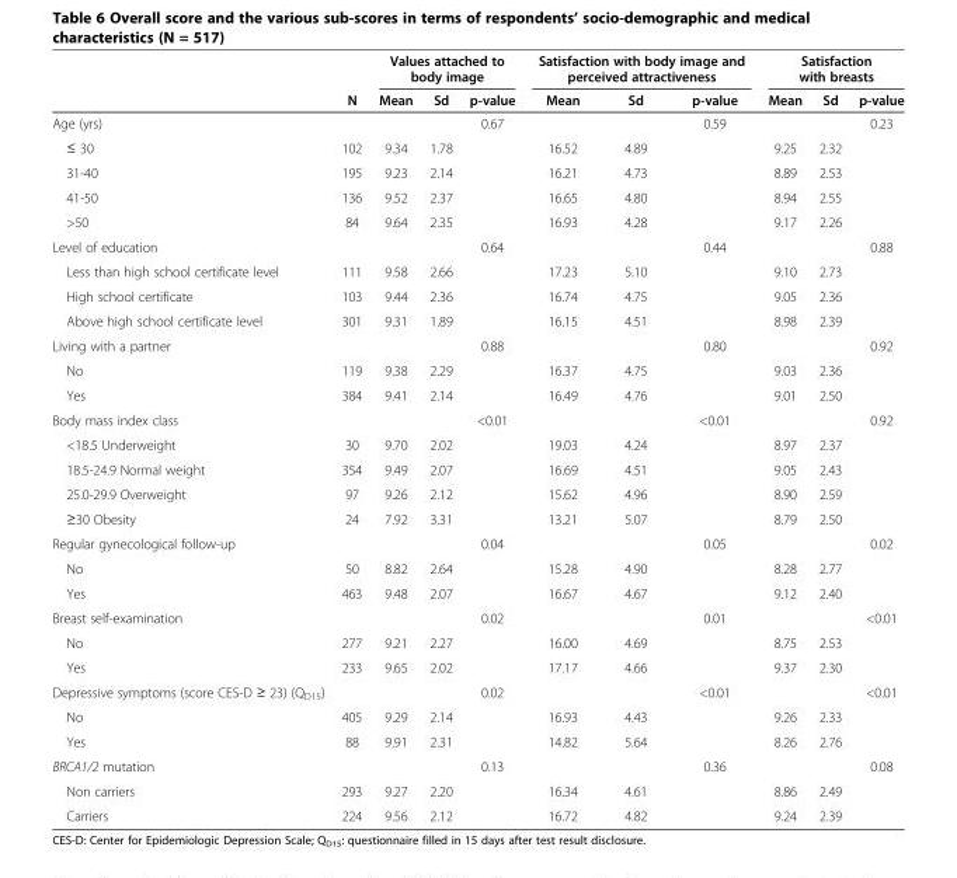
<table><thead><tr><td rowspan="2"></td><td rowspan="2">N</td><td colspan="3">Values attached to body image</td><td colspan="3">Satisfaction with body image and perceived attractiveness</td><td colspan="3">Satisfaction with breasts</td></tr><tr><td>Mean</td><td>Sd</td><td>p-value</td><td>Mean</td><td>Sd</td><td>p-value</td><td>Mean</td><td>Sd</td><td>p-value</td></tr></thead><tbody><tr><td>Age (yrs)</td><td></td><td></td><td></td><td>0.67</td><td></td><td></td><td>0.59</td><td></td><td></td><td>0.23</td></tr><tr><td>≤ 30</td><td>102</td><td>9.34</td><td>1.78</td><td></td><td>16.52</td><td>4.89</td><td></td><td>9.25</td><td>2.32</td><td></td></tr><tr><td>31-40</td><td>195</td><td>9.23</td><td>2.14</td><td></td><td>16.21</td><td>4.73</td><td></td><td>8.89</td><td>2.53</td><td></td></tr><tr><td>41-50</td><td>136</td><td>9.52</td><td>2.37</td><td></td><td>16.65</td><td>4.80</td><td></td><td>8.94</td><td>2.55</td><td></td></tr><tr><td>&gt;50</td><td>84</td><td>9.64</td><td>2.35</td><td></td><td>16.93</td><td>4.28</td><td></td><td>9.17</td><td>2.26</td><td></td></tr><tr><td>Level of education</td><td></td><td></td><td></td><td>0.64</td><td></td><td></td><td>0.44</td><td></td><td></td><td>0.88</td></tr><tr><td>Less than high school certificate level</td><td>111</td><td>9.58</td><td>2.66</td><td></td><td>17.23</td><td>5.10</td><td></td><td>9.10</td><td>2.73</td><td></td></tr><tr><td>High school certificate</td><td>103</td><td>9.44</td><td>2.36</td><td></td><td>16.74</td><td>4.75</td><td></td><td>9.05</td><td>2.36</td><td></td></tr><tr><td>Above high school certificate level</td><td>301</td><td>9.31</td><td>1.89</td><td></td><td>16.15</td><td>4.51</td><td></td><td>8.98</td><td>2.39</td><td></td></tr><tr><td>Living with a partner</td><td></td><td></td><td></td><td>0.88</td><td></td><td></td><td>0.80</td><td></td><td></td><td>0.92</td></tr><tr><td>No</td><td>119</td><td>9.38</td><td>2.29</td><td></td><td>16.37</td><td>4.75</td><td></td><td>9.03</td><td>2.36</td><td></td></tr><tr><td>Yes</td><td>384</td><td>9.41</td><td>2.14</td><td></td><td>16.49</td><td>4.76</td><td></td><td>9.01</td><td>2.50</td><td></td></tr><tr><td>Body mass index class</td><td></td><td></td><td></td><td>&lt;0.01</td><td></td><td></td><td>&lt;0.01</td><td></td><td></td><td>0.92</td></tr><tr><td>&lt;18.5 Underweight</td><td>30</td><td>9.70</td><td>2.02</td><td></td><td>19.03</td><td>4.24</td><td></td><td>8.97</td><td>2.37</td><td></td></tr><tr><td>18.5-24.9 Normal weight</td><td>354</td><td>9.49</td><td>2.07</td><td></td><td>16.69</td><td>4.51</td><td></td><td>9.05</td><td>2.43</td><td></td></tr><tr><td>25.0-29.9 Overweight</td><td>97</td><td>9.26</td><td>2.12</td><td></td><td>15.62</td><td>4.96</td><td></td><td>8.90</td><td>2.59</td><td></td></tr><tr><td>≥30 Obesity</td><td>24</td><td>7.92</td><td>3.31</td><td></td><td>13.21</td><td>5.07</td><td></td><td>8.79</td><td>2.50</td><td></td></tr><tr><td>Regular gynecological follow-up</td><td></td><td></td><td></td><td>0.04</td><td></td><td></td><td>0.05</td><td></td><td></td><td>0.02</td></tr><tr><td>No</td><td>50</td><td>8.82</td><td>2.64</td><td></td><td>15.28</td><td>4.90</td><td></td><td>8.28</td><td>2.77</td><td></td></tr><tr><td>Yes</td><td>463</td><td>9.48</td><td>2.07</td><td></td><td>16.67</td><td>4.67</td><td></td><td>9.12</td><td>2.40</td><td></td></tr><tr><td>Breast self-examination</td><td></td><td></td><td></td><td>0.02</td><td></td><td></td><td>0.01</td><td></td><td></td><td>&lt;0.01</td></tr><tr><td>No</td><td>277</td><td>9.21</td><td>2.27</td><td></td><td>16.00</td><td>4.69</td><td></td><td>8.75</td><td>2.53</td><td></td></tr><tr><td>Yes</td><td>233</td><td>9.65</td><td>2.02</td><td></td><td>17.17</td><td>4.66</td><td></td><td>9.37</td><td>2.30</td><td></td></tr><tr><td>Depressive symptoms (score CES-D ≥ 23) (Q<sub>D15</sub>)</td><td></td><td></td><td></td><td>0.02</td><td></td><td></td><td>&lt;0.01</td><td></td><td></td><td>&lt;0.01</td></tr><tr><td>No</td><td>405</td><td>9.29</td><td>2.14</td><td></td><td>16.93</td><td>4.43</td><td></td><td>9.26</td><td>2.33</td><td></td></tr><tr><td>Yes</td><td>88</td><td>9.91</td><td>2.31</td><td></td><td>14.82</td><td>5.64</td><td></td><td>8.26</td><td>2.76</td><td></td></tr><tr><td>BRCA1/2 mutation</td><td></td><td></td><td></td><td>0.13</td><td></td><td></td><td>0.36</td><td></td><td></td><td>0.08</td></tr><tr><td>Non carriers</td><td>293</td><td>9.27</td><td>2.20</td><td></td><td>16.34</td><td>4.61</td><td></td><td>8.86</td><td>2.49</td><td></td></tr><tr><td>Carriers</td><td>224</td><td>9.56</td><td>2.12</td><td></td><td>16.72</td><td>4.82</td><td></td><td>9.24</td><td>2.39</td><td></td></tr></tbody></table>